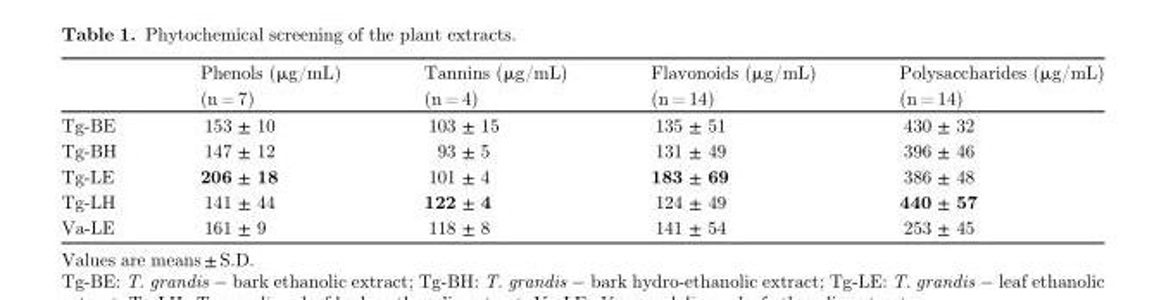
<table><thead><tr><td rowspan="2"></td><td rowspan="2">Phenols (μg/mL) (n = 7)</td><td rowspan="2">Tannins (μg/mL) (n = 4)</td><td rowspan="2">Flavonoids (μg/mL) (n = 14)</td><td rowspan="2">Polysaccharides (μg/mL) (n = 14)</td></tr><tr></tr></thead><tbody><tr><td>Tg-BE</td><td>153 ± 10</td><td>103 ± 15</td><td>135 ± 51</td><td>430 ± 32</td></tr><tr><td>Tg-BH</td><td>147 ± 12</td><td>93 ± 5</td><td>131 ± 49</td><td>396 ± 46</td></tr><tr><td>Tg-LE</td><td>206 ± 18</td><td>101 ± 4</td><td>183 ± 69</td><td>386 ± 48</td></tr><tr><td>Tg-LH</td><td>141 ± 44</td><td>122 ± 4</td><td>124 ± 49</td><td>440 ± 57</td></tr><tr><td>Va-LE</td><td>161 ± 9</td><td>118 ± 8</td><td>141 ± 54</td><td>253 ± 45</td></tr></tbody></table>